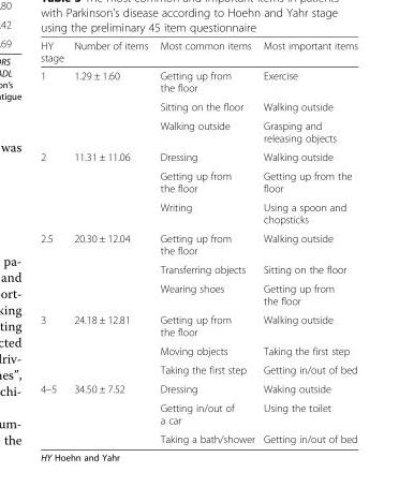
<table><thead><tr><td>HY stage</td><td>Number of items</td><td>Most common items</td><td>Most important items</td></tr></thead><tbody><tr><td rowspan="3">1</td><td>1.29 ± 1.60</td><td>Getting up from the floor</td><td>Exercise</td></tr><tr><td></td><td>Sitting on the floor</td><td>Walking outside</td></tr><tr><td></td><td>Walking outside</td><td>Grasping and releasing objects</td></tr><tr><td rowspan="3">2</td><td>11.31 ± 11.06</td><td>Dressing</td><td>Walking outside</td></tr><tr><td></td><td>Getting up from the floor</td><td>Getting up from the floor</td></tr><tr><td></td><td>Writing</td><td>Using a spoon and chopsticks</td></tr><tr><td rowspan="3">2.5</td><td>20.30 ± 12.04</td><td>Getting up from the floor</td><td>Walking outside</td></tr><tr><td></td><td>Transferring objects</td><td>Sitting on the floor</td></tr><tr><td></td><td>Wearing shoes</td><td>Getting up from the floor</td></tr><tr><td rowspan="3">3</td><td>24.18 ± 12.81</td><td>Getting up from the floor</td><td>Walking outside</td></tr><tr><td></td><td>Moving objects</td><td>Taking the first step</td></tr><tr><td></td><td>Taking the first step</td><td>Getting in/out of bed</td></tr><tr><td rowspan="3">4–5</td><td>34.50 ± 7.52</td><td>Dressing</td><td>Waking outside</td></tr><tr><td></td><td>Getting in/out of a car</td><td>Using the toilet</td></tr><tr><td></td><td>Taking a bath/shower</td><td>Getting in/out of bed</td></tr></tbody></table>